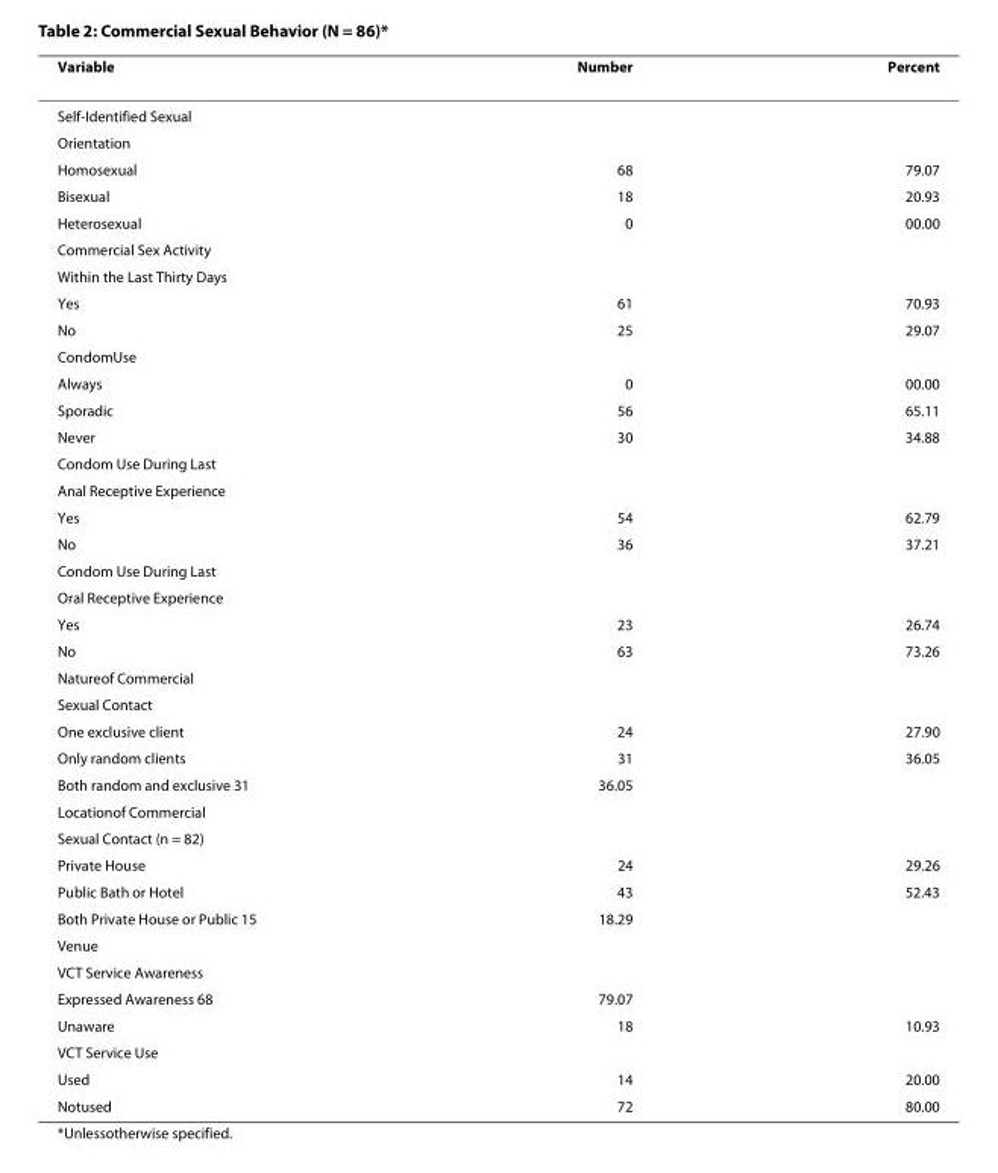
<table><thead><tr><td>Variable</td><td>Number</td><td>Percent</td></tr></thead><tbody><tr><td colspan="3">Self-Identified Sexual</td></tr><tr><td colspan="3">Orientation</td></tr><tr><td>Homosexual</td><td>68</td><td>79.07</td></tr><tr><td>Bisexual</td><td>18</td><td>20.93</td></tr><tr><td>Heterosexual</td><td>0</td><td>00.00</td></tr><tr><td colspan="3">Commercial Sex Activity</td></tr><tr><td colspan="3">Within the Last Thirty Days</td></tr><tr><td>Yes</td><td>61</td><td>70.93</td></tr><tr><td>No</td><td>25</td><td>29.07</td></tr><tr><td colspan="3">CondomUse</td></tr><tr><td>Always</td><td>0</td><td>00.00</td></tr><tr><td>Sporadic</td><td>56</td><td>65.11</td></tr><tr><td>Never</td><td>30</td><td>34.88</td></tr><tr><td colspan="3">Condom Use During Last</td></tr><tr><td colspan="3">Anal Receptive Experience</td></tr><tr><td>Yes</td><td>54</td><td>62.79</td></tr><tr><td>No</td><td>36</td><td>37.21</td></tr><tr><td colspan="3">Condom Use During Last</td></tr><tr><td colspan="3">Oral Receptive Experience</td></tr><tr><td>Yes</td><td>23</td><td>26.74</td></tr><tr><td>No</td><td>63</td><td>73.26</td></tr><tr><td colspan="3">Natureof Commercial</td></tr><tr><td colspan="3">Sexual Contact</td></tr><tr><td>One exclusive client</td><td>24</td><td>27.90</td></tr><tr><td>Only random clients</td><td>31</td><td>36.05</td></tr><tr><td>Both random and exclusive 31</td><td>36.05</td><td></td></tr><tr><td colspan="3">Locationof Commercial</td></tr><tr><td colspan="3">Sexual Contact (n = 82)</td></tr><tr><td>Private House</td><td>24</td><td>29.26</td></tr><tr><td>Public Bath or Hotel</td><td>43</td><td>52.43</td></tr><tr><td>Both Private House or Public 15</td><td>18.29</td><td></td></tr><tr><td colspan="3">Venue</td></tr><tr><td colspan="3">VCT Service Awareness</td></tr><tr><td>Expressed Awareness 68</td><td>79.07</td><td></td></tr><tr><td>Unaware</td><td>18</td><td>10.93</td></tr><tr><td colspan="3">VCT Service Use</td></tr><tr><td>Used</td><td>14</td><td>20.00</td></tr><tr><td>Notused</td><td>72</td><td>80.00</td></tr></tbody></table>